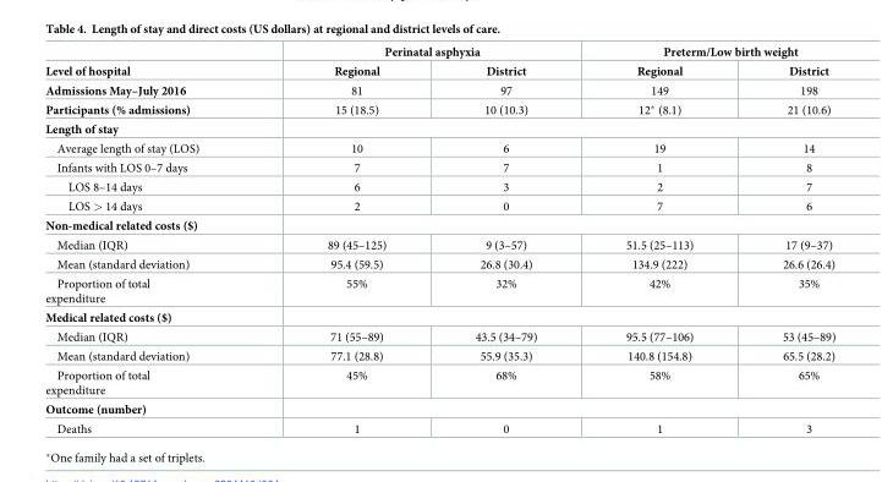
<table><thead><tr><td rowspan="2">Level of hospital</td><td colspan="2">Perinatal asphyxia</td><td colspan="2">Preterm/Low birth weight</td></tr><tr><td>Regional</td><td>District</td><td>Regional</td><td>District</td></tr></thead><tbody><tr><td>Admissions May–July 2016</td><td>81</td><td>97</td><td>149</td><td>198</td></tr><tr><td>Participants (% admissions)</td><td>15 (18.5)</td><td>10 (10.3)</td><td>12* (8.1)</td><td>21 (10.6)</td></tr><tr><td colspan="5">Length of stay</td></tr><tr><td>Average length of stay (LOS)</td><td>10</td><td>6</td><td>19</td><td>14</td></tr><tr><td>Infants with LOS 0–7 days</td><td>7</td><td>7</td><td>1</td><td>8</td></tr><tr><td>LOS 8–14 days</td><td>6</td><td>3</td><td>2</td><td>7</td></tr><tr><td>LOS &gt; 14 days</td><td>2</td><td>0</td><td>7</td><td>6</td></tr><tr><td colspan="5">Non-medical related costs ($)</td></tr><tr><td>Median (IQR)</td><td>89 (45–125)</td><td>9 (3–57)</td><td>51.5 (25–113)</td><td>17 (9–37)</td></tr><tr><td>Mean (standard deviation)</td><td>95.4 (59.5)</td><td>26.8 (30.4)</td><td>134.9 (222)</td><td>26.6 (26.4)</td></tr><tr><td>Proportion of total expenditure</td><td>55%</td><td>32%</td><td>42%</td><td>35%</td></tr><tr><td colspan="5">Medical related costs ($)</td></tr><tr><td>Median (IQR)</td><td>71 (55–89)</td><td>43.5 (34–79)</td><td>95.5 (77–106)</td><td>53 (45–89)</td></tr><tr><td>Mean (standard deviation)</td><td>77.1 (28.8)</td><td>55.9 (35.3)</td><td>140.8 (154.8)</td><td>65.5 (28.2)</td></tr><tr><td>Proportion of total expenditure</td><td>45%</td><td>68%</td><td>58%</td><td>65%</td></tr><tr><td colspan="5">Outcome (number)</td></tr><tr><td>Deaths</td><td>1</td><td>0</td><td>1</td><td>3</td></tr></tbody></table>